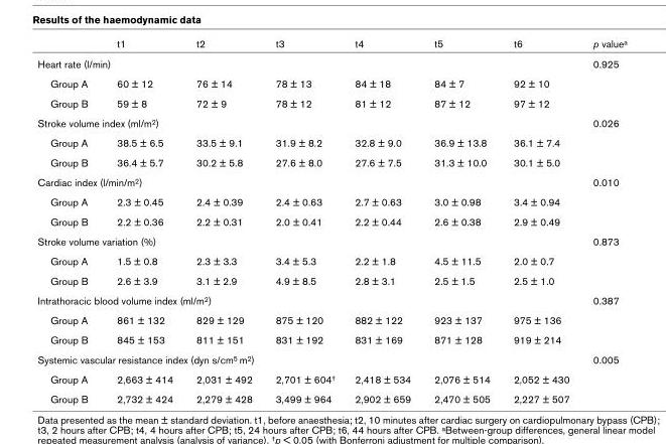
<table><thead><tr><td></td><td>t1</td><td>t2</td><td>t3</td><td>t4</td><td>t5</td><td>t6</td><td>p value<sup>a</sup></td></tr></thead><tbody><tr><td colspan="7">Heart rate (l/min)</td><td>0.925</td></tr><tr><td>Group A</td><td>60 ± 12</td><td>76 ± 14</td><td>78 ± 13</td><td>84 ± 18</td><td>84 ± 7</td><td>92 ± 10</td><td></td></tr><tr><td>Group B</td><td>59 ± 8</td><td>72 ± 9</td><td>78 ± 12</td><td>81 ± 12</td><td>87 ± 12</td><td>97 ± 12</td><td></td></tr><tr><td colspan="7">Stroke volume index (ml/m<sup>2</sup>)</td><td>0.026</td></tr><tr><td>Group A</td><td>38.5 ± 6.5</td><td>33.5 ± 9.1</td><td>31.9 ± 8.2</td><td>32.8 ± 9.0</td><td>36.9 ± 13.8</td><td>36.1 ± 7.4</td><td></td></tr><tr><td>Group B</td><td>36.4 ± 5.7</td><td>30.2 ± 5.8</td><td>27.6 ± 8.0</td><td>27.6 ± 7.5</td><td>31.3 ± 10.0</td><td>30.1 ± 5.0</td><td></td></tr><tr><td colspan="7">Cardiac index (l/min/m<sup>2</sup>)</td><td>0.010</td></tr><tr><td>Group A</td><td>2.3 ± 0.45</td><td>2.4 ± 0.39</td><td>2.4 ± 0.63</td><td>2.7 ± 0.63</td><td>3.0 ± 0.98</td><td>3.4 ± 0.94</td><td></td></tr><tr><td>Group B</td><td>2.2 ± 0.36</td><td>2.2 ± 0.31</td><td>2.0 ± 0.41</td><td>2.2 ± 0.44</td><td>2.6 ± 0.38</td><td>2.9 ± 0.49</td><td></td></tr><tr><td colspan="7">Stroke volume variation (%)</td><td>0.873</td></tr><tr><td>Group A</td><td>1.5 ± 0.8</td><td>2.3 ± 3.3</td><td>3.4 ± 5.3</td><td>2.2 ± 1.8</td><td>4.5 ± 11.5</td><td>2.0 ± 0.7</td><td></td></tr><tr><td>Group B</td><td>2.6 ± 3.9</td><td>3.1 ± 2.9</td><td>4.9 ± 8.5</td><td>2.8 ± 3.1</td><td>2.5 ± 1.5</td><td>2.5 ± 1.0</td><td></td></tr><tr><td colspan="7">Intrathoracic blood volume index (ml/m<sup>2</sup>)</td><td>0.387</td></tr><tr><td>Group A</td><td>861 ± 132</td><td>829 ± 129</td><td>875 ± 120</td><td>882 ± 122</td><td>923 ± 137</td><td>975 ± 136</td><td></td></tr><tr><td>Group B</td><td>845 ± 153</td><td>811 ± 151</td><td>831 ± 192</td><td>831 ± 169</td><td>871 ± 128</td><td>919 ± 214</td><td></td></tr><tr><td colspan="7">Systemic vascular resistance index (dyn s/cm<sup>5</sup> m<sup>2</sup>)</td><td>0.005</td></tr><tr><td>Group A</td><td>2,663 ± 414</td><td>2,031 ± 492</td><td>2,701 ± 604<sup>†</sup></td><td>2,418 ± 534</td><td>2,076 ± 514</td><td>2,052 ± 430</td><td></td></tr><tr><td>Group B</td><td>2,732 ± 424</td><td>2,279 ± 428</td><td>3,499 ± 964</td><td>2,902 ± 659</td><td>2,470 ± 505</td><td>2,227 ± 507</td><td></td></tr></tbody></table>